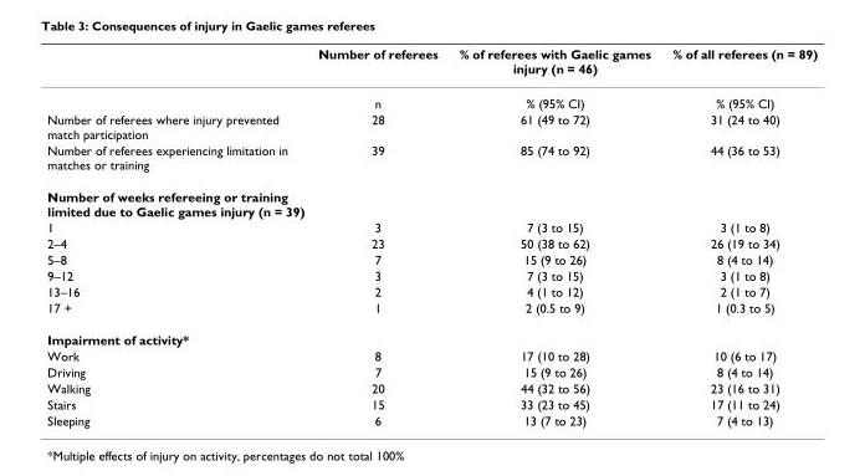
<table><thead><tr><td></td><td>Number of referees</td><td>% of referees with Gaelic games injury (n = 46)</td><td>% of all referees (n = 89)</td></tr></thead><tbody><tr><td></td><td>n</td><td>% (95% CI)</td><td>% (95% CI)</td></tr><tr><td>Number of referees where injury prevented match participation</td><td>28</td><td>61 (49 to 72)</td><td>31 (24 to 40)</td></tr><tr><td>Number of referees experiencing limitation in matches or training</td><td>39</td><td>85 (74 to 92)</td><td>44 (36 to 53)</td></tr><tr><td colspan="4">Number of weeks refereeing or training limited due to Gaelic games injury (n = 39)</td></tr><tr><td>1</td><td>3</td><td>7 (3 to 15)</td><td>3 (1 to 8)</td></tr><tr><td>2–4</td><td>23</td><td>50 (38 to 62)</td><td>26 (19 to 34)</td></tr><tr><td>5–8</td><td>7</td><td>15 (9 to 26)</td><td>8 (4 to 14)</td></tr><tr><td>9–12</td><td>3</td><td>7 (3 to 15)</td><td>3 (1 to 8)</td></tr><tr><td>13–16</td><td>2</td><td>4 (1 to 12)</td><td>2 (1 to 7)</td></tr><tr><td>17 +</td><td>1</td><td>2 (0.5 to 9)</td><td>1 (0.3 to 5)</td></tr><tr><td colspan="4">Impairment of activity*</td></tr><tr><td>Work</td><td>8</td><td>17 (10 to 28)</td><td>10 (6 to 17)</td></tr><tr><td>Driving</td><td>7</td><td>15 (9 to 26)</td><td>8 (4 to 14)</td></tr><tr><td>Walking</td><td>20</td><td>44 (32 to 56)</td><td>23 (16 to 31)</td></tr><tr><td>Stairs</td><td>15</td><td>33 (23 to 45)</td><td>17 (11 to 24)</td></tr><tr><td>Sleeping</td><td>6</td><td>13 (7 to 23)</td><td>7 (4 to 13)</td></tr></tbody></table>